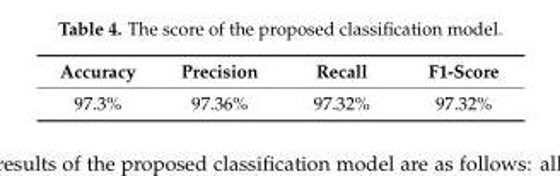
<table><thead><tr><td>Accuracy</td><td>Precision</td><td>Recall</td><td>F1-Score</td></tr></thead><tbody><tr><td>97.3%</td><td>97.36%</td><td>97.32%</td><td>97.32%</td></tr></tbody></table>